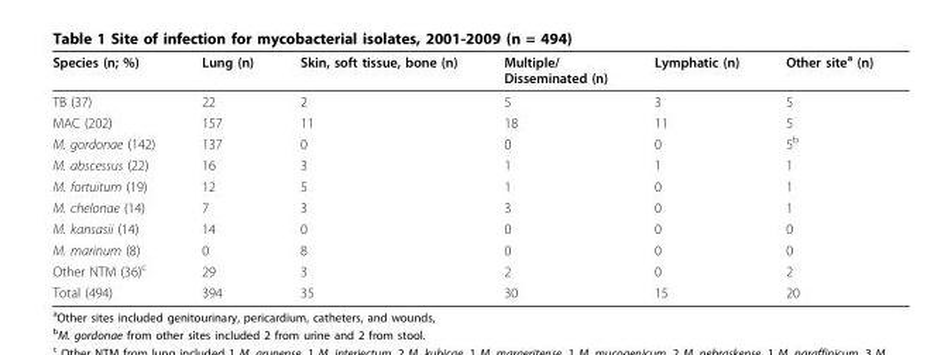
<table><thead><tr><td>Species (n; %)</td><td>Lung (n)</td><td>Skin, soft tissue, bone (n)</td><td>Multiple/ Disseminated (n)</td><td>Lymphatic (n)</td><td>Other site<sup>a</sup> (n)</td></tr></thead><tbody><tr><td>TB (37)</td><td>22</td><td>2</td><td>5</td><td>3</td><td>5</td></tr><tr><td>MAC (202)</td><td>157</td><td>11</td><td>18</td><td>11</td><td>5</td></tr><tr><td>M. gordonae (142)</td><td>137</td><td>0</td><td>0</td><td>0</td><td>5<sup>b</sup></td></tr><tr><td>M. abscessus (22)</td><td>16</td><td>3</td><td>1</td><td>1</td><td>1</td></tr><tr><td>M. fortuitum (19)</td><td>12</td><td>5</td><td>1</td><td>0</td><td>1</td></tr><tr><td>M. chelonae (14)</td><td>7</td><td>3</td><td>3</td><td>0</td><td>1</td></tr><tr><td>M. kansasii (14)</td><td>14</td><td>0</td><td>0</td><td>0</td><td>0</td></tr><tr><td>M. marinum (8)</td><td>0</td><td>8</td><td>0</td><td>0</td><td>0</td></tr><tr><td>Other NTM (36)<sup>c</sup></td><td>29</td><td>3</td><td>2</td><td>0</td><td>2</td></tr><tr><td>Total (494)</td><td>394</td><td>35</td><td>30</td><td>15</td><td>20</td></tr></tbody></table>